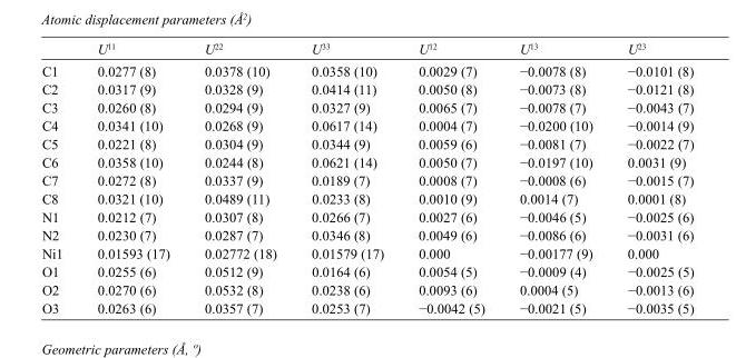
<table><thead><tr><td></td><td>U<sup>11</sup></td><td>U<sup>22</sup></td><td>U<sup>33</sup></td><td>U<sup>12</sup></td><td>U<sup>13</sup></td><td>U<sup>23</sup></td></tr></thead><tbody><tr><td>C1</td><td>0.0277 (8)</td><td>0.0378 (10)</td><td>0.0358 (10)</td><td>0.0029 (7)</td><td>−0.0078 (8)</td><td>−0.0101 (8)</td></tr><tr><td>C2</td><td>0.0317 (9)</td><td>0.0328 (9)</td><td>0.0414 (11)</td><td>0.0050 (8)</td><td>−0.0073 (8)</td><td>−0.0121 (8)</td></tr><tr><td>C3</td><td>0.0260 (8)</td><td>0.0294 (9)</td><td>0.0327 (9)</td><td>0.0065 (7)</td><td>−0.0078 (7)</td><td>−0.0043 (7)</td></tr><tr><td>C4</td><td>0.0341 (10)</td><td>0.0268 (9)</td><td>0.0617 (14)</td><td>0.0004 (7)</td><td>−0.0200 (10)</td><td>−0.0014 (9)</td></tr><tr><td>C5</td><td>0.0221 (8)</td><td>0.0304 (9)</td><td>0.0344 (9)</td><td>0.0059 (6)</td><td>−0.0081 (7)</td><td>−0.0022 (7)</td></tr><tr><td>C6</td><td>0.0358 (10)</td><td>0.0244 (8)</td><td>0.0621 (14)</td><td>0.0050 (7)</td><td>−0.0197 (10)</td><td>0.0031 (9)</td></tr><tr><td>C7</td><td>0.0272 (8)</td><td>0.0337 (9)</td><td>0.0189 (7)</td><td>0.0008 (7)</td><td>−0.0008 (6)</td><td>−0.0015 (7)</td></tr><tr><td>C8</td><td>0.0321 (10)</td><td>0.0489 (11)</td><td>0.0233 (8)</td><td>0.0010 (9)</td><td>0.0014 (7)</td><td>0.0001 (8)</td></tr><tr><td>N1</td><td>0.0212 (7)</td><td>0.0307 (8)</td><td>0.0266 (7)</td><td>0.0027 (6)</td><td>−0.0046 (5)</td><td>−0.0025 (6)</td></tr><tr><td>N2</td><td>0.0230 (7)</td><td>0.0287 (7)</td><td>0.0346 (8)</td><td>0.0049 (6)</td><td>−0.0086 (6)</td><td>−0.0031 (6)</td></tr><tr><td>Ni1</td><td>0.01593 (17)</td><td>0.02772 (18)</td><td>0.01579 (17)</td><td>0.000</td><td>−0.00177 (9)</td><td>0.000</td></tr><tr><td>O1</td><td>0.0255 (6)</td><td>0.0512 (9)</td><td>0.0164 (6)</td><td>0.0054 (5)</td><td>−0.0009 (4)</td><td>−0.0025 (5)</td></tr><tr><td>O2</td><td>0.0270 (6)</td><td>0.0532 (8)</td><td>0.0238 (6)</td><td>0.0093 (6)</td><td>0.0004 (5)</td><td>−0.0013 (6)</td></tr><tr><td>O3</td><td>0.0263 (6)</td><td>0.0357 (7)</td><td>0.0253 (7)</td><td>−0.0042 (5)</td><td>−0.0021 (5)</td><td>−0.0035 (5)</td></tr></tbody></table>